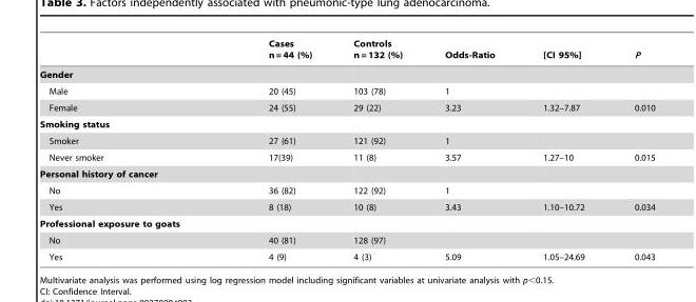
<table><thead><tr><td></td><td>Cases n = 44 (%)</td><td>Controls n = 132 (%)</td><td>Odds-Ratio</td><td>[CI 95%]</td><td>P</td></tr></thead><tbody><tr><td colspan="6">Gender</td></tr><tr><td>Male</td><td>20 (45)</td><td>103 (78)</td><td>1</td><td></td><td></td></tr><tr><td>Female</td><td>24 (55)</td><td>29 (22)</td><td>3.23</td><td>1.32–7.87</td><td>0.010</td></tr><tr><td colspan="6">Smoking status</td></tr><tr><td>Smoker</td><td>27 (61)</td><td>121 (92)</td><td>1</td><td></td><td></td></tr><tr><td>Never smoker</td><td>17(39)</td><td>11 (8)</td><td>3.57</td><td>1.27–10</td><td>0.015</td></tr><tr><td colspan="6">Personal history of cancer</td></tr><tr><td>No</td><td>36 (82)</td><td>122 (92)</td><td>1</td><td></td><td></td></tr><tr><td>Yes</td><td>8 (18)</td><td>10 (8)</td><td>3.43</td><td>1.10–10.72</td><td>0.034</td></tr><tr><td colspan="6">Professional exposure to goats</td></tr><tr><td>No</td><td>40 (81)</td><td>128 (97)</td><td></td><td></td><td></td></tr><tr><td>Yes</td><td>4 (9)</td><td>4 (3)</td><td>5.09</td><td>1.05–24.69</td><td>0.043</td></tr></tbody></table>